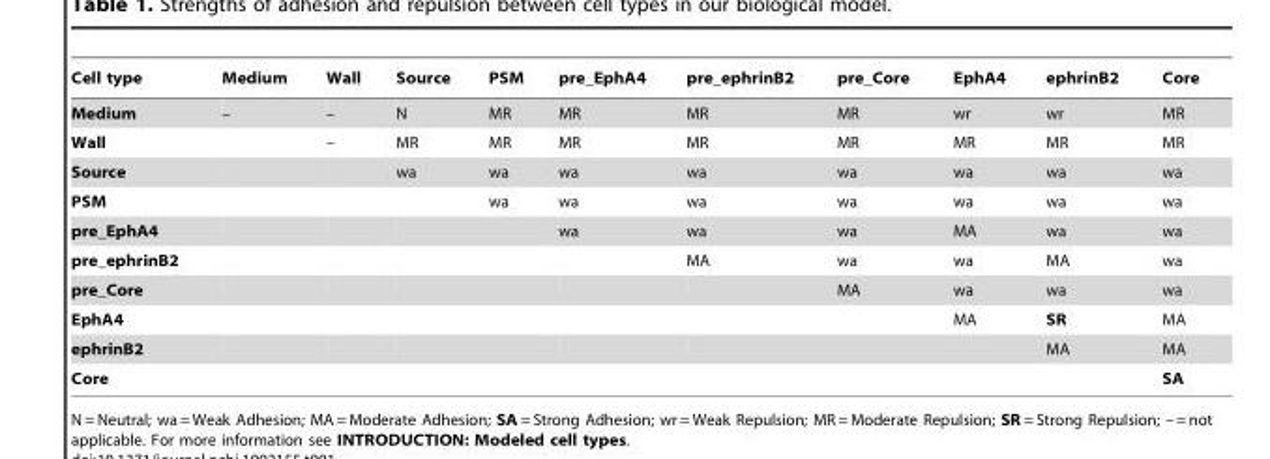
<table><thead><tr><td>Cell type</td><td>Medium</td><td>Wall</td><td>Source</td><td>PSM</td><td>pre_EphA4</td><td>pre_ephrinB2</td><td>pre_Core</td><td>EphA4</td><td>ephrinB2</td><td>Core</td></tr></thead><tbody><tr><td>Medium</td><td>–</td><td>–</td><td>N</td><td>MR</td><td>MR</td><td>MR</td><td>MR</td><td>wr</td><td>wr</td><td>MR</td></tr><tr><td>Wall</td><td></td><td>–</td><td>MR</td><td>MR</td><td>MR</td><td>MR</td><td>MR</td><td>MR</td><td>MR</td><td>MR</td></tr><tr><td>Source</td><td></td><td></td><td>wa</td><td>wa</td><td>wa</td><td>wa</td><td>wa</td><td>wa</td><td>wa</td><td>wa</td></tr><tr><td>PSM</td><td></td><td></td><td></td><td>wa</td><td>wa</td><td>wa</td><td>wa</td><td>wa</td><td>wa</td><td>wa</td></tr><tr><td>pre_EphA4</td><td></td><td></td><td></td><td></td><td>wa</td><td>wa</td><td>wa</td><td>MA</td><td>wa</td><td>wa</td></tr><tr><td>pre_ephrinB2</td><td></td><td></td><td></td><td></td><td></td><td>MA</td><td>wa</td><td>wa</td><td>MA</td><td>wa</td></tr><tr><td>pre_Core</td><td></td><td></td><td></td><td></td><td></td><td></td><td>MA</td><td>wa</td><td>wa</td><td>wa</td></tr><tr><td>EphA4</td><td></td><td></td><td></td><td></td><td></td><td></td><td></td><td>MA</td><td>SR</td><td>MA</td></tr><tr><td>ephrinB2</td><td></td><td></td><td></td><td></td><td></td><td></td><td></td><td></td><td>MA</td><td>MA</td></tr><tr><td>Core</td><td></td><td></td><td></td><td></td><td></td><td></td><td></td><td></td><td></td><td>SA</td></tr></tbody></table>